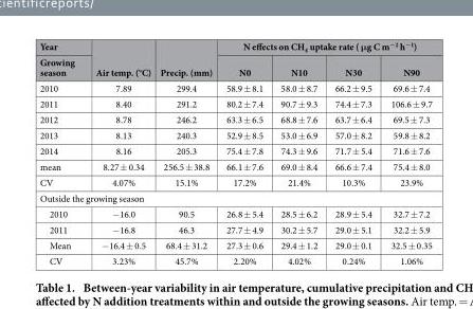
<table><thead><tr><td rowspan="2">Year Growing season</td><td rowspan="2">Air temp. (°C)</td><td rowspan="2">Precip. (mm)</td><td colspan="4">N effects on CH<sub>4</sub> uptake rate ( μg C m<sup>−2</sup> h<sup>−1</sup>)</td></tr><tr><td>N0</td><td>N10</td><td>N30</td><td>N90</td></tr></thead><tbody><tr><td>2010</td><td>7.89</td><td>299.4</td><td>58.9 ± 8.1</td><td>58.0 ± 8.7</td><td>66.2 ± 9.5</td><td>69.6 ± 7.4</td></tr><tr><td>2011</td><td>8.40</td><td>291.2</td><td>80.2 ± 7.4</td><td>90.7 ± 9.3</td><td>74.4 ± 7.3</td><td>106.6 ± 9.7</td></tr><tr><td>2012</td><td>8.78</td><td>246.2</td><td>63.3 ± 6.5</td><td>68.8 ± 7.6</td><td>63.7 ± 6.4</td><td>69.5 ± 7.3</td></tr><tr><td>2013</td><td>8.13</td><td>240.3</td><td>52.9 ± 8.5</td><td>53.0 ± 6.9</td><td>57.0 ± 8.2</td><td>59.8 ± 8.2</td></tr><tr><td>2014</td><td>8.16</td><td>205.3</td><td>75.4 ± 7.8</td><td>74.3 ± 9.6</td><td>71.7 ± 5.4</td><td>71.6 ± 7.6</td></tr><tr><td>mean</td><td>8.27 ± 0.34</td><td>256.5 ± 38.8</td><td>66.1 ± 7.6</td><td>69.0 ± 8.4</td><td>66.6 ± 7.4</td><td>75.4 ± 8.0</td></tr><tr><td>CV</td><td>4.07%</td><td>15.1%</td><td>17.2%</td><td>21.4%</td><td>10.3%</td><td>23.9%</td></tr><tr><td colspan="7">Outside the growing season</td></tr><tr><td>2010</td><td>− 16.0</td><td>90.5</td><td>26.8 ± 5.4</td><td>28.5 ± 6.2</td><td>28.9 ± 5.4</td><td>32.7 ± 7.2</td></tr><tr><td>2011</td><td>− 16.8</td><td>46.3</td><td>27.7 ± 4.9</td><td>30.2 ± 5.7</td><td>29.0 ± 5.1</td><td>32.2 ± 5.9</td></tr><tr><td>Mean</td><td>− 16.4 ± 0.5</td><td>68.4 ± 31.2</td><td>27.3 ± 0.6</td><td>29.4 ± 1.2</td><td>29.0 ± 0.1</td><td>32.5 ± 0.35</td></tr><tr><td>CV</td><td>3.23%</td><td>45.7%</td><td>2.20%</td><td>4.02%</td><td>0.24%</td><td>1.06%</td></tr></tbody></table>